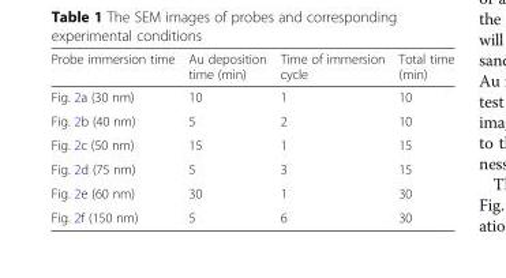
<table><thead><tr><td>Probe immersion time</td><td>Au deposition time (min)</td><td>Time of immersion cycle</td><td>Total time (min)</td></tr></thead><tbody><tr><td>Fig. 2a (30 nm)</td><td>10</td><td>1</td><td>10</td></tr><tr><td>Fig. 2b (40 nm)</td><td>5</td><td>2</td><td>10</td></tr><tr><td>Fig. 2c (50 nm)</td><td>15</td><td>1</td><td>15</td></tr><tr><td>Fig. 2d (75 nm)</td><td>5</td><td>3</td><td>15</td></tr><tr><td>Fig. 2e (60 nm)</td><td>30</td><td>1</td><td>30</td></tr><tr><td>Fig. 2f (150 nm)</td><td>5</td><td>6</td><td>30</td></tr></tbody></table>